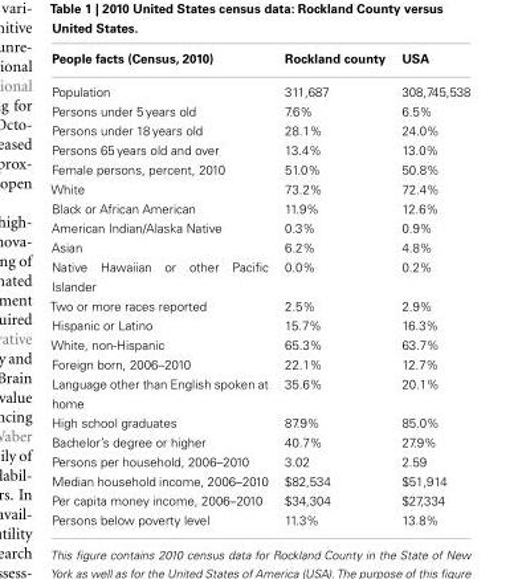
<table><thead><tr><td>People facts (Census, 2010)</td><td>Rockland county</td><td>USA</td></tr></thead><tbody><tr><td>Population</td><td>311,687</td><td>308,745,538</td></tr><tr><td>Persons under 5 years old</td><td>7.6%</td><td>6.5%</td></tr><tr><td>Persons under 18 years old</td><td>28.1%</td><td>24.0%</td></tr><tr><td>Persons 65 years old and over</td><td>13.4%</td><td>13.0%</td></tr><tr><td>Female persons, percent, 2010</td><td>51.0%</td><td>50.8%</td></tr><tr><td>White</td><td>73.2%</td><td>72.4%</td></tr><tr><td>Black or African American</td><td>11.9%</td><td>12.6%</td></tr><tr><td>American Indian/Alaska Native</td><td>0.3%</td><td>0.9%</td></tr><tr><td>Asian</td><td>6.2%</td><td>4.8%</td></tr><tr><td>Native Hawaiian or other Pacific Islander</td><td>0.0%</td><td>0.2%</td></tr><tr><td>Two or more races reported</td><td>2.5%</td><td>2.9%</td></tr><tr><td>Hispanic or Latino</td><td>15.7%</td><td>16.3%</td></tr><tr><td>White, non-Hispanic</td><td>65.3%</td><td>63.7%</td></tr><tr><td>Foreign born, 2006–2010</td><td>22.1%</td><td>12.7%</td></tr><tr><td>Language other than English spoken at home</td><td>35.6%</td><td>20.1%</td></tr><tr><td>High school graduates</td><td>87.9%</td><td>85.0%</td></tr><tr><td>Bachelor’s degree or higher</td><td>40.7%</td><td>27.9%</td></tr><tr><td>Persons per household, 2006–2010</td><td>3.02</td><td>2.59</td></tr><tr><td>Median household income, 2006–2010</td><td>$82,534</td><td>$51,914</td></tr><tr><td>Per capita money income, 2006–2010</td><td>$34,304</td><td>$27,334</td></tr><tr><td>Persons below poverty level</td><td>11.3%</td><td>13.8%</td></tr></tbody></table>